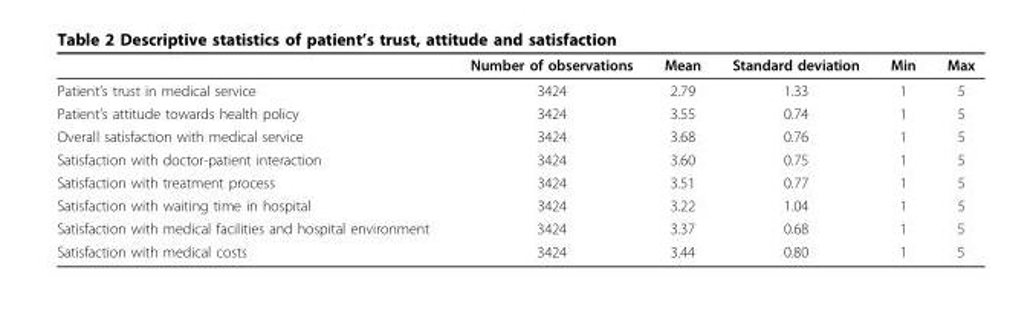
<table><thead><tr><td></td><td>Number of observations</td><td>Mean</td><td>Standard deviation</td><td>Min</td><td>Max</td></tr></thead><tbody><tr><td>Patient’s trust in medical service</td><td>3424</td><td>2.79</td><td>1.33</td><td>1</td><td>5</td></tr><tr><td>Patient’s attitude towards health policy</td><td>3424</td><td>3.55</td><td>0.74</td><td>1</td><td>5</td></tr><tr><td>Overall satisfaction with medical service</td><td>3424</td><td>3.68</td><td>0.76</td><td>1</td><td>5</td></tr><tr><td>Satisfaction with doctor-patient interaction</td><td>3424</td><td>3.60</td><td>0.75</td><td>1</td><td>5</td></tr><tr><td>Satisfaction with treatment process</td><td>3424</td><td>3.51</td><td>0.77</td><td>1</td><td>5</td></tr><tr><td>Satisfaction with waiting time in hospital</td><td>3424</td><td>3.22</td><td>1.04</td><td>1</td><td>5</td></tr><tr><td>Satisfaction with medical facilities and hospital environment</td><td>3424</td><td>3.37</td><td>0.68</td><td>1</td><td>5</td></tr><tr><td>Satisfaction with medical costs</td><td>3424</td><td>3.44</td><td>0.80</td><td>1</td><td>5</td></tr></tbody></table>